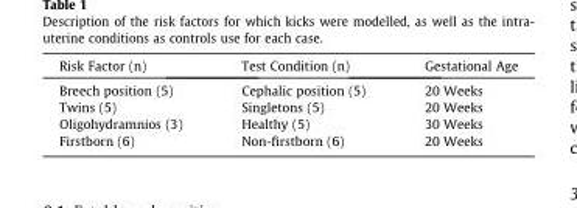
<table><thead><tr><td>Risk Factor (n)</td><td>Test Condition (n)</td><td>Gestational Age</td></tr></thead><tbody><tr><td>Breech position (5)</td><td>Cephalic position (5)</td><td>20 Weeks</td></tr><tr><td>Twins (5)</td><td>Singletons (5)</td><td>20 Weeks</td></tr><tr><td>Oligohydramnios (3)</td><td>Healthy (5)</td><td>30 Weeks</td></tr><tr><td>Firstborn (6)</td><td>Non-firstborn (6)</td><td>20 Weeks</td></tr></tbody></table>